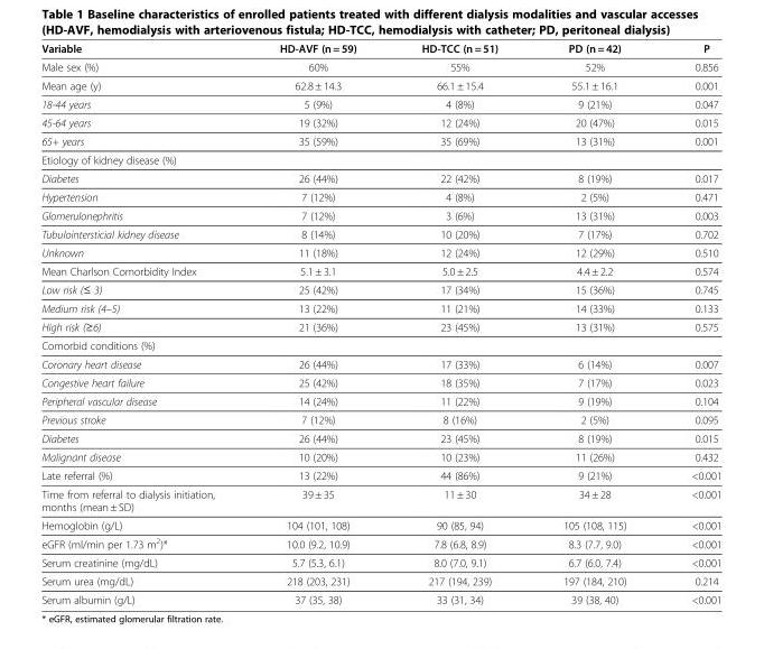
<table><thead><tr><td rowspan="2">Variable Male sex (%)</td><td rowspan="2">HD-AVF (n = 59) 60%</td><td rowspan="2">HD-TCC (n = 51) 55%</td><td rowspan="2">PD (n = 42) 52%</td><td rowspan="2">P 0.856</td></tr><tr></tr></thead><tbody><tr><td>Mean age (y)</td><td>62.8 ± 14.3</td><td>66.1 ± 15.4</td><td>55.1 ± 16.1</td><td>0.001</td></tr><tr><td>18-44 years</td><td>5 (9%)</td><td>4 (8%)</td><td>9 (21%)</td><td>0.047</td></tr><tr><td>45-64 years</td><td>19 (32%)</td><td>12 (24%)</td><td>20 (47%)</td><td>0.015</td></tr><tr><td>65+ years</td><td>35 (59%)</td><td>35 (69%)</td><td>13 (31%)</td><td>0.001</td></tr><tr><td colspan="5">Etiology of kidney disease (%)</td></tr><tr><td>Diabetes</td><td>26 (44%)</td><td>22 (42%)</td><td>8 (19%)</td><td>0.017</td></tr><tr><td>Hypertension</td><td>7 (12%)</td><td>4 (8%)</td><td>2 (5%)</td><td>0.471</td></tr><tr><td>Glomerulonephritis</td><td>7 (12%)</td><td>3 (6%)</td><td>13 (31%)</td><td>0.003</td></tr><tr><td>Tubulointersticial kidney disease</td><td>8 (14%)</td><td>10 (20%)</td><td>7 (17%)</td><td>0.702</td></tr><tr><td>Unknown</td><td>11 (18%)</td><td>12 (24%)</td><td>12 (29%)</td><td>0.510</td></tr><tr><td>Mean Charlson Comorbidity Index</td><td>5.1 ± 3.1</td><td>5.0 ± 2.5</td><td>4.4 ± 2.2</td><td>0.574</td></tr><tr><td>Low risk (≤ 3)</td><td>25 (42%)</td><td>17 (34%)</td><td>15 (36%)</td><td>0.745</td></tr><tr><td>Medium risk (4–5)</td><td>13 (22%)</td><td>11 (21%)</td><td>14 (33%)</td><td>0.133</td></tr><tr><td>High risk (≥6)</td><td>21 (36%)</td><td>23 (45%)</td><td>13 (31%)</td><td>0.575</td></tr><tr><td colspan="5">Comorbid conditions (%)</td></tr><tr><td>Coronary heart disease</td><td>26 (44%)</td><td>17 (33%)</td><td>6 (14%)</td><td>0.007</td></tr><tr><td>Congestive heart failure</td><td>25 (42%)</td><td>18 (35%)</td><td>7 (17%)</td><td>0.023</td></tr><tr><td>Peripheral vascular disease</td><td>14 (24%)</td><td>11 (22%)</td><td>9 (19%)</td><td>0.104</td></tr><tr><td>Previous stroke</td><td>7 (12%)</td><td>8 (16%)</td><td>2 (5%)</td><td>0.095</td></tr><tr><td>Diabetes</td><td>26 (44%)</td><td>23 (45%)</td><td>8 (19%)</td><td>0.015</td></tr><tr><td>Malignant disease</td><td>10 (20%)</td><td>10 (23%)</td><td>11 (26%)</td><td>0.432</td></tr><tr><td>Late referral (%)</td><td>13 (22%)</td><td>44 (86%)</td><td>9 (21%)</td><td>&lt;0.001</td></tr><tr><td>Time from referral to dialysis initiation, months (mean ± SD)</td><td>39 ± 35</td><td>11 ± 30</td><td>34 ± 28</td><td>&lt;0.001</td></tr><tr><td>Hemoglobin (g/L)</td><td>104 (101, 108)</td><td>90 (85, 94)</td><td>105 (108, 115)</td><td>&lt;0.001</td></tr><tr><td>eGFR (ml/min per 1.73 m<sup>2</sup>)*</td><td>10.0 (9.2, 10.9)</td><td>7.8 (6.8, 8.9)</td><td>8.3 (7.7, 9.0)</td><td>&lt;0.001</td></tr><tr><td>Serum creatinine (mg/dL)</td><td>5.7 (5.3, 6.1)</td><td>8.0 (7.0, 9.1)</td><td>6.7 (6.0, 7.4)</td><td>&lt;0.001</td></tr><tr><td>Serum urea (mg/dL)</td><td>218 (203, 231)</td><td>217 (194, 239)</td><td>197 (184, 210)</td><td>0.214</td></tr><tr><td>Serum albumin (g/L)</td><td>37 (35, 38)</td><td>33 (31, 34)</td><td>39 (38, 40)</td><td>&lt;0.001</td></tr></tbody></table>